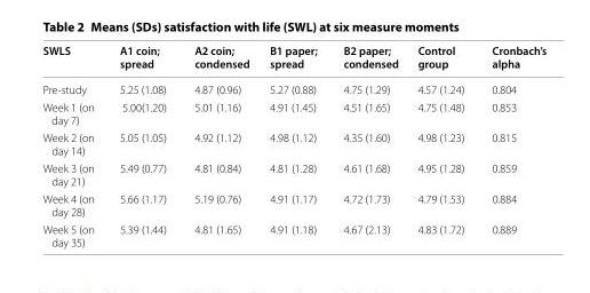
<table><thead><tr><td>SWLS</td><td>A1 coin; spread</td><td>A2 coin; condensed</td><td>B1 paper; spread</td><td>B2 paper; condensed</td><td>Control group</td><td>Cronbach’s alpha</td></tr></thead><tbody><tr><td>Pre-study</td><td>5.25 (1.08)</td><td>4.87 (0.96)</td><td>5.27 (0.88)</td><td>4.75 (1.29)</td><td>4.57 (1.24)</td><td>0.804</td></tr><tr><td>Week 1 (on day 7)</td><td>5.00(1.20)</td><td>5.01 (1.16)</td><td>4.91 (1.45)</td><td>4.51 (1.65)</td><td>4.75 (1.48)</td><td>0.853</td></tr><tr><td>Week 2 (on day 14)</td><td>5.05 (1.05)</td><td>4.92 (1.12)</td><td>4.98 (1.12)</td><td>4.35 (1.60)</td><td>4.98 (1.23)</td><td>0.815</td></tr><tr><td>Week 3 (on day 21)</td><td>5.49 (0.77)</td><td>4.81 (0.84)</td><td>4.81 (1.28)</td><td>4.61 (1.68)</td><td>4.95 (1.28)</td><td>0.859</td></tr><tr><td>Week 4 (on day 28)</td><td>5.66 (1.17)</td><td>5.19 (0.76)</td><td>4.91 (1.17)</td><td>4.72 (1.73)</td><td>4.79 (1.53)</td><td>0.884</td></tr><tr><td>Week 5 (on day 35)</td><td>5.39 (1.44)</td><td>4.81 (1.65)</td><td>4.91 (1.18)</td><td>4.67 (2.13)</td><td>4.83 (1.72)</td><td>0.889</td></tr></tbody></table>